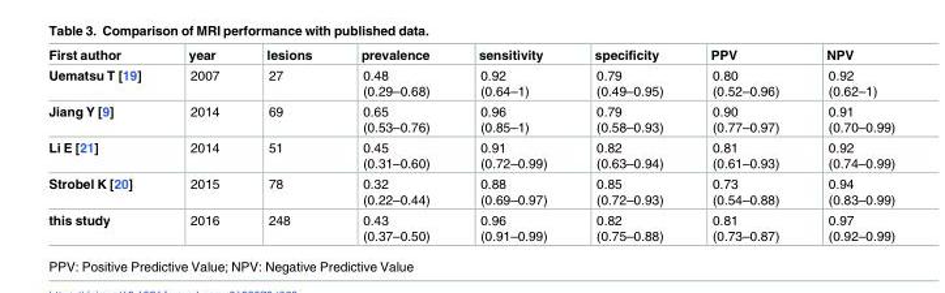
<table><thead><tr><td>First author</td><td>year</td><td>lesions</td><td>prevalence</td><td>sensitivity</td><td>specificity</td><td>PPV</td><td>NPV</td></tr></thead><tbody><tr><td>Uematsu T [19]</td><td>2007</td><td>27</td><td>0.48 (0.29–0.68)</td><td>0.92 (0.64–1)</td><td>0.79 (0.49–0.95)</td><td>0.80 (0.52–0.96)</td><td>0.92 (0.62–1)</td></tr><tr><td>Jiang Y [9]</td><td>2014</td><td>69</td><td>0.65 (0.53–0.76)</td><td>0.96 (0.85–1)</td><td>0.79 (0.58–0.93)</td><td>0.90 (0.77–0.97)</td><td>0.91 (0.70–0.99)</td></tr><tr><td>Li E [21]</td><td>2014</td><td>51</td><td>0.45 (0.31–0.60)</td><td>0.91 (0.72–0.99)</td><td>0.82 (0.63–0.94)</td><td>0.81 (0.61–0.93)</td><td>0.92 (0.74–0.99)</td></tr><tr><td>Strobel K [20]</td><td>2015</td><td>78</td><td>0.32 (0.22–0.44)</td><td>0.88 (0.69–0.97)</td><td>0.85 (0.72–0.93)</td><td>0.73 (0.54–0.88)</td><td>0.94 (0.83–0.99)</td></tr><tr><td>this study</td><td>2016</td><td>248</td><td>0.43 (0.37–0.50)</td><td>0.96 (0.91–0.99)</td><td>0.82 (0.75–0.88)</td><td>0.81 (0.73–0.87)</td><td>0.97 (0.92–0.99)</td></tr></tbody></table>